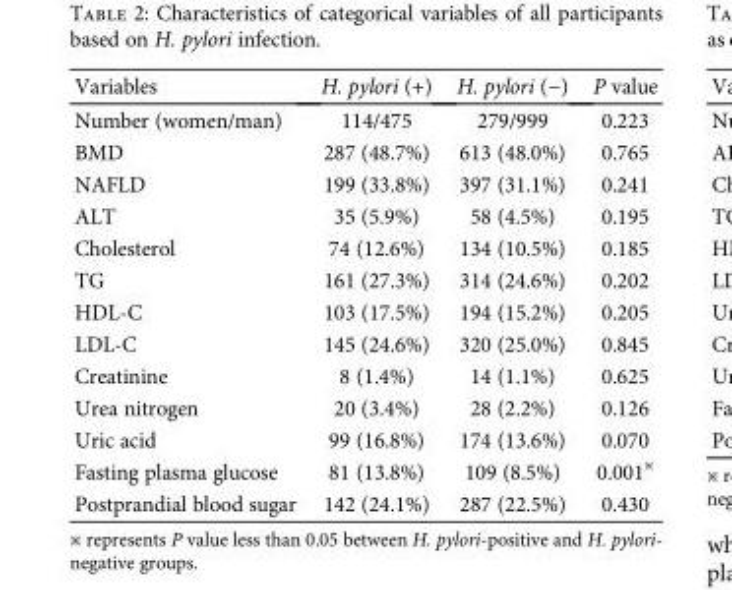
<table><thead><tr><td>Variables</td><td>H. pylori (+)</td><td>H. pylori (−)</td><td>P value</td></tr></thead><tbody><tr><td>Number (women/man)</td><td>114/475</td><td>279/999</td><td>0.223</td></tr><tr><td>BMD</td><td>287 (48.7%)</td><td>613 (48.0%)</td><td>0.765</td></tr><tr><td>NAFLD</td><td>199 (33.8%)</td><td>397 (31.1%)</td><td>0.241</td></tr><tr><td>ALT</td><td>35 (5.9%)</td><td>58 (4.5%)</td><td>0.195</td></tr><tr><td>Cholesterol</td><td>74 (12.6%)</td><td>134 (10.5%)</td><td>0.185</td></tr><tr><td>TG</td><td>161 (27.3%)</td><td>314 (24.6%)</td><td>0.202</td></tr><tr><td>HDL-C</td><td>103 (17.5%)</td><td>194 (15.2%)</td><td>0.205</td></tr><tr><td>LDL-C</td><td>145 (24.6%)</td><td>320 (25.0%)</td><td>0.845</td></tr><tr><td>Creatinine</td><td>8 (1.4%)</td><td>14 (1.1%)</td><td>0.625</td></tr><tr><td>Urea nitrogen</td><td>20 (3.4%)</td><td>28 (2.2%)</td><td>0.126</td></tr><tr><td>Uric acid</td><td>99 (16.8%)</td><td>174 (13.6%)</td><td>0.070</td></tr><tr><td>Fasting plasma glucose</td><td>81 (13.8%)</td><td>109 (8.5%)</td><td>0.001<sup>※</sup></td></tr><tr><td>Postprandial blood sugar</td><td>142 (24.1%)</td><td>287 (22.5%)</td><td>0.430</td></tr></tbody></table>